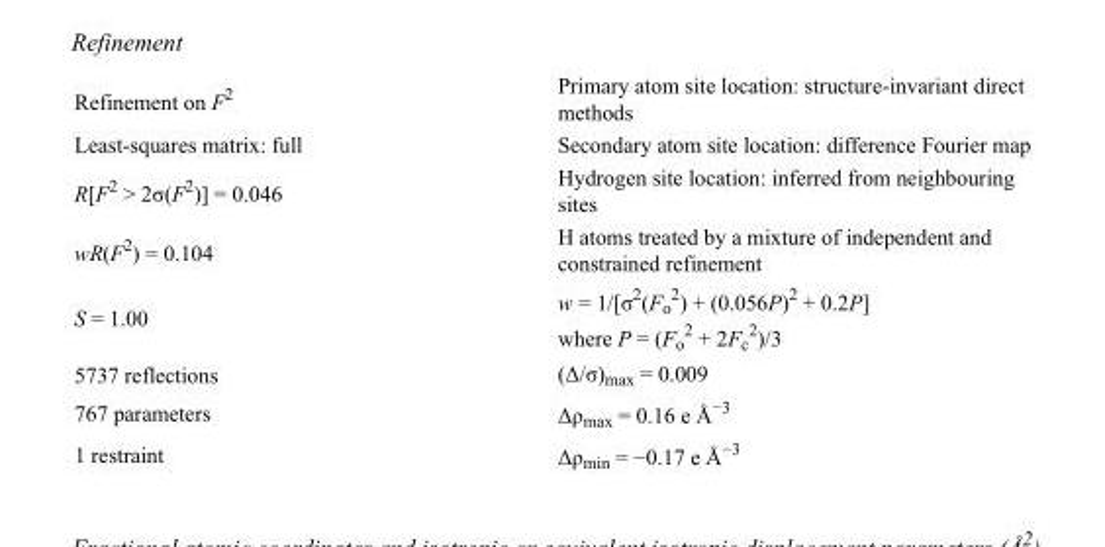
<table><tbody><tr><td>Refinement on F<sup>2</sup></td><td>Primary atom site location: structure-invariant direct methods</td></tr><tr><td>Least-squares matrix: full</td><td>Secondary atom site location: difference Fourier map</td></tr><tr><td>R[F<sup>2</sup> &gt; 2σ(F<sup>2</sup>)] = 0.046</td><td>Hydrogen site location: inferred from neighbouring sites</td></tr><tr><td>wR(F<sup>2</sup>) = 0.104</td><td>H atoms treated by a mixture of independent and constrained refinement</td></tr><tr><td>S = 1.00</td><td>w = 1/[σ<sup>2</sup>(F<sub>o</sub> <sup>2</sup>) + (0.056P)<sup>2</sup> + 0.2P] where P = (F<sub>o</sub> <sup>2</sup> + 2F<sub>c</sub> <sup>2</sup>)/3</td></tr><tr><td>5737 reflections</td><td>(Δ/σ)<sub>max</sub> = 0.009</td></tr><tr><td>767 parameters</td><td>Δρ<sub>max</sub> = 0.16 e Å<sup>−3</sup></td></tr><tr><td>1 restraint</td><td>Δρ<sub>min</sub> = −0.17 e Å<sup>−3</sup></td></tr></tbody></table>